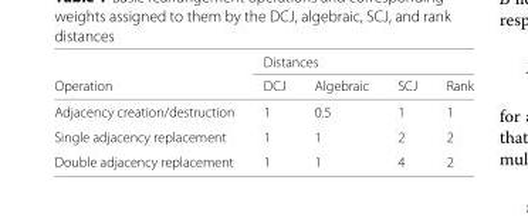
<table><thead><tr><td rowspan="2">Operation</td><td colspan="4">Distances</td></tr><tr><td>DCJ</td><td>Algebraic</td><td>SCJ</td><td>Rank</td></tr></thead><tbody><tr><td>Adjacency creation/destruction</td><td>1</td><td>0.5</td><td>1</td><td>1</td></tr><tr><td>Single adjacency replacement</td><td>1</td><td>1</td><td>2</td><td>2</td></tr><tr><td>Double adjacency replacement</td><td>1</td><td>1</td><td>4</td><td>2</td></tr></tbody></table>